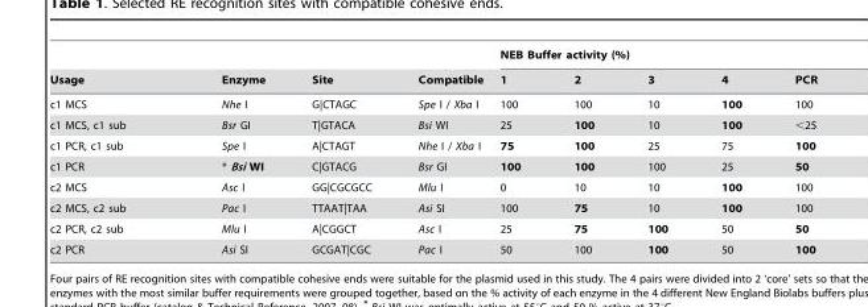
<table><thead><tr><td rowspan="2">Usage</td><td rowspan="2">Enzyme</td><td rowspan="2">Site</td><td rowspan="2">Compatible</td><td colspan="5">NEB Buffer activity (%)</td></tr><tr><td>1</td><td>2</td><td>3</td><td>4</td><td>PCR</td></tr></thead><tbody><tr><td>c1 MCS</td><td>Nhe I</td><td>G|CTAGC</td><td>Spe I / Xba I</td><td>100</td><td>100</td><td>10</td><td>100</td><td>100</td></tr><tr><td>c1 MCS, c1 sub</td><td>Bsr GI</td><td>T|GTACA</td><td>Bsi WI</td><td>25</td><td>100</td><td>10</td><td>100</td><td>&lt;25</td></tr><tr><td>c1 PCR, c1 sub</td><td>Spe I</td><td>A|CTAGT</td><td>Nhe I / Xba I</td><td>75</td><td>100</td><td>25</td><td>75</td><td>100</td></tr><tr><td>c1 PCR</td><td>* Bsi WI</td><td>C|GTACG</td><td>Bsr GI</td><td>100</td><td>100</td><td>100</td><td>25</td><td>50</td></tr><tr><td>c2 MCS</td><td>Asc I</td><td>GG|CGCGCC</td><td>Mlu I</td><td>0</td><td>10</td><td>10</td><td>100</td><td>100</td></tr><tr><td>c2 MCS, c2 sub</td><td>Pac I</td><td>TTAAT|TAA</td><td>Asi SI</td><td>100</td><td>75</td><td>10</td><td>100</td><td>100</td></tr><tr><td>c2 PCR, c2 sub</td><td>Mlu I</td><td>A|CGGCT</td><td>Asc I</td><td>25</td><td>75</td><td>100</td><td>50</td><td>50</td></tr><tr><td>c2 PCR</td><td>Asi SI</td><td>GCGAT|CGC</td><td>Pac I</td><td>50</td><td>100</td><td>100</td><td>50</td><td>100</td></tr></tbody></table>